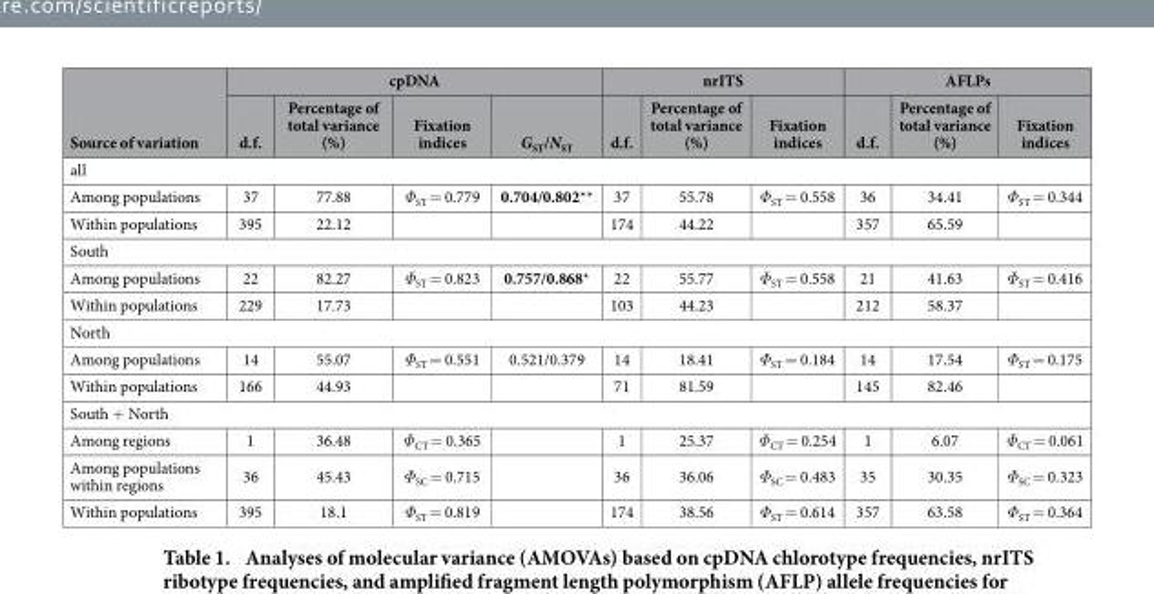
<table><thead><tr><td rowspan="2">Source of variation</td><td colspan="4">cpDNA</td><td colspan="3">nrITS</td><td colspan="3">AFLPs</td></tr><tr><td>d.f.</td><td>Percentage of total variance (%)</td><td>Fixation indices</td><td>G<sub>ST</sub>/N<sub>ST</sub></td><td>d.f.</td><td>Percentage of total variance (%)</td><td>Fixation indices</td><td>d.f.</td><td>Percentage of total variance (%)</td><td>Fixation indices</td></tr></thead><tbody><tr><td colspan="11">all</td></tr><tr><td>Among populations</td><td>37</td><td>77.88</td><td>Φ<sub>ST</sub> = 0.779</td><td>0.704/0.802**</td><td>37</td><td>55.78</td><td>Φ<sub>ST</sub> = 0.558</td><td>36</td><td>34.41</td><td>Φ<sub>ST</sub> = 0.344</td></tr><tr><td>Within populations</td><td>395</td><td>22.12</td><td></td><td></td><td>174</td><td>44.22</td><td></td><td>357</td><td>65.59</td><td></td></tr><tr><td colspan="11">South</td></tr><tr><td>Among populations</td><td>22</td><td>82.27</td><td>Φ<sub>ST</sub> = 0.823</td><td>0.757/0.868*</td><td>22</td><td>55.77</td><td>Φ<sub>ST</sub> = 0.558</td><td>21</td><td>41.63</td><td>Φ<sub>ST</sub> = 0.416</td></tr><tr><td>Within populations</td><td>229</td><td>17.73</td><td></td><td></td><td>103</td><td>44.23</td><td></td><td>212</td><td>58.37</td><td></td></tr><tr><td colspan="11">North</td></tr><tr><td>Among populations</td><td>14</td><td>55.07</td><td>Φ<sub>ST</sub> = 0.551</td><td>0.521/0.379</td><td>14</td><td>18.41</td><td>Φ<sub>ST</sub> = 0.184</td><td>14</td><td>17.54</td><td>Φ<sub>ST</sub> = 0.175</td></tr><tr><td>Within populations</td><td>166</td><td>44.93</td><td></td><td></td><td>71</td><td>81.59</td><td></td><td>145</td><td>82.46</td><td></td></tr><tr><td colspan="11">South + North</td></tr><tr><td>Among regions</td><td>1</td><td>36.48</td><td>Φ<sub>CT</sub> = 0.365</td><td></td><td>1</td><td>25.37</td><td>Φ<sub>CT</sub> = 0.254</td><td>1</td><td>6.07</td><td>Φ<sub>CT</sub> = 0.061</td></tr><tr><td>Among populations within regions</td><td>36</td><td>45.43</td><td>Φ<sub>SC</sub> = 0.715</td><td></td><td>36</td><td>36.06</td><td>Φ<sub>SC</sub> = 0.483</td><td>35</td><td>30.35</td><td>Φ<sub>SC</sub> = 0.323</td></tr><tr><td>Within populations</td><td>395</td><td>18.1</td><td>Φ<sub>ST</sub> = 0.819</td><td></td><td>174</td><td>38.56</td><td>Φ<sub>ST</sub> = 0.614</td><td>357</td><td>63.58</td><td>Φ<sub>ST</sub> = 0.364</td></tr></tbody></table>